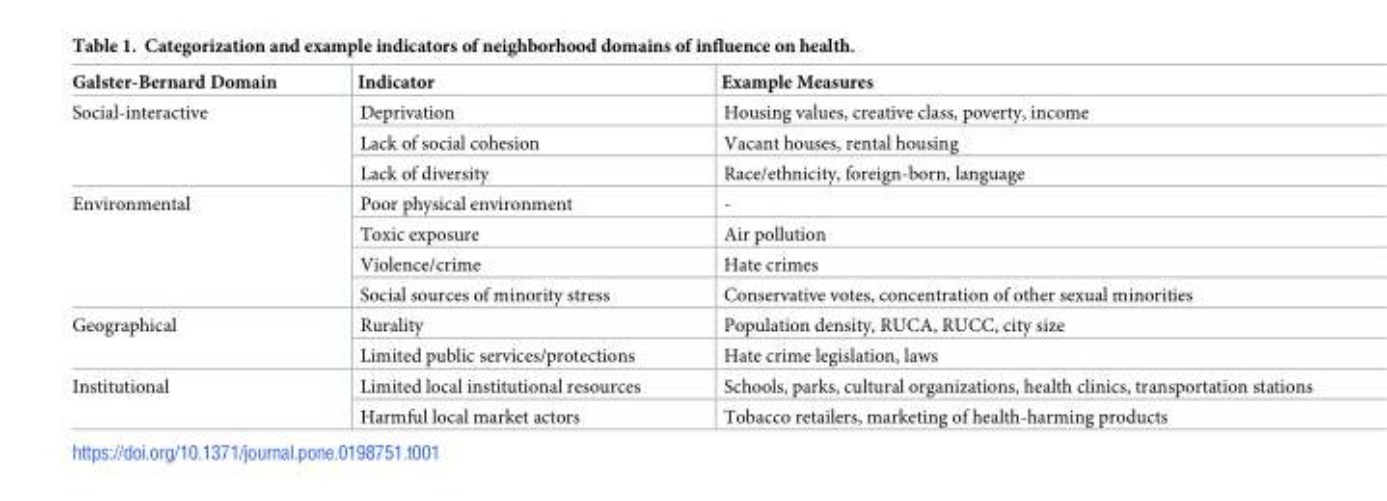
<table><thead><tr><td>Galster-Bernard Domain</td><td>Indicator</td><td>Example Measures</td></tr></thead><tbody><tr><td rowspan="3">Social-interactive</td><td>Deprivation</td><td>Housing values, creative class, poverty, income</td></tr><tr><td>Lack of social cohesion</td><td>Vacant houses, rental housing</td></tr><tr><td>Lack of diversity</td><td>Race/ethnicity, foreign-born, language</td></tr><tr><td rowspan="4">Environmental</td><td>Poor physical environment</td><td>-</td></tr><tr><td>Toxic exposure</td><td>Air pollution</td></tr><tr><td>Violence/crime</td><td>Hate crimes</td></tr><tr><td>Social sources of minority stress</td><td>Conservative votes, concentration of other sexual minorities</td></tr><tr><td rowspan="2">Geographical</td><td>Rurality</td><td>Population density, RUCA, RUCC, city size</td></tr><tr><td>Limited public services/protections</td><td>Hate crime legislation, laws</td></tr><tr><td rowspan="2">Institutional</td><td>Limited local institutional resources</td><td>Schools, parks, cultural organizations, health clinics, transportation stations</td></tr><tr><td>Harmful local market actors</td><td>Tobacco retailers, marketing of health-harming products</td></tr></tbody></table>